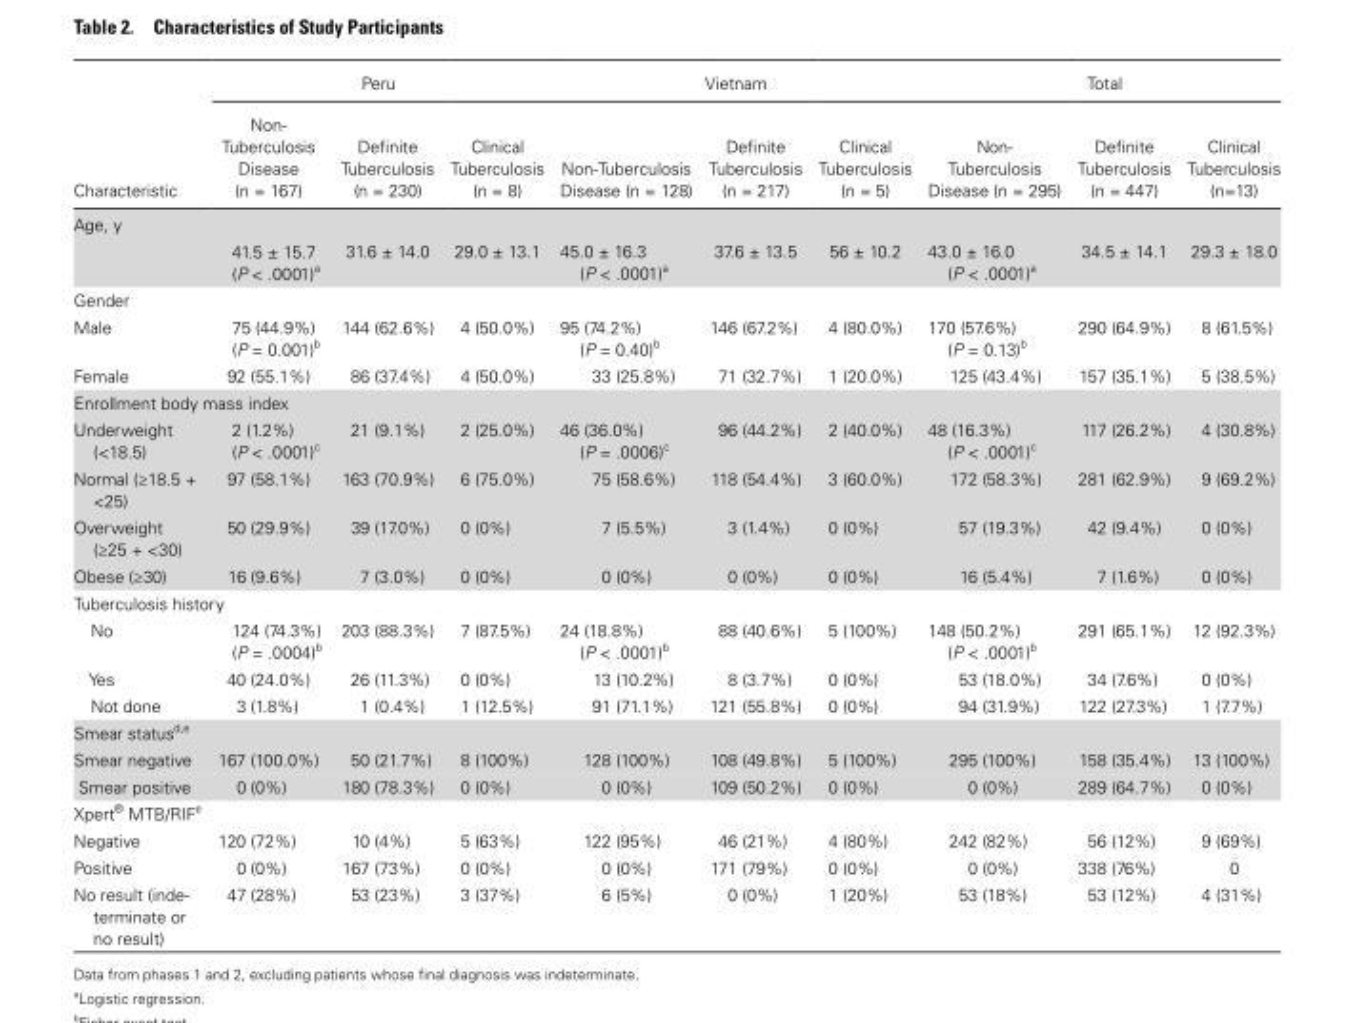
<table><thead><tr><td rowspan="2">Characteristic</td><td colspan="3">Peru</td><td colspan="3">Vietnam</td><td colspan="3">Total</td></tr><tr><td>Non- Tuberculosis Disease (n = 167)</td><td>Definite Tuberculosis (n = 230)</td><td>Clinical Tuberculosis (n = 8)</td><td>Non-Tuberculosis Disease (n = 128)</td><td>Definite Tuberculosis (n = 217)</td><td>Clinical Tuberculosis (n = 5)</td><td>Non- Tuberculosis Disease (n = 295)</td><td>Definite Tuberculosis (n = 447)</td><td>Clinical Tuberculosis (n=13)</td></tr></thead><tbody><tr><td colspan="10">Age, y</td></tr><tr><td></td><td>41.5 ± 15.7 (P &lt; .0001)<sup>a</sup></td><td>31.6 ± 14.0</td><td>29.0 ± 13.1</td><td>45.0 ± 16.3 (P &lt; .0001)<sup>a</sup></td><td>37.6 ± 13.5</td><td>56 ± 10.2</td><td>43.0 ± 16.0 (P &lt; .0001)<sup>a</sup></td><td>34.5 ± 14.1</td><td>29.3 ± 18.0</td></tr><tr><td colspan="10">Gender</td></tr><tr><td>Male</td><td>75 (44.9%) (P = 0.001)<sup>b</sup></td><td>144 (62.6%)</td><td>4 (50.0%)</td><td>95 (74.2%) (P = 0.40)<sup>b</sup></td><td>146 (67.2%)</td><td>4 (80.0%)</td><td>170 (57.6%) (P = 0.13)<sup>b</sup></td><td>290 (64.9%)</td><td>8 (61.5%)</td></tr><tr><td>Female</td><td>92 (55.1%)</td><td>86 (37.4%)</td><td>4 (50.0%)</td><td>33 (25.8%)</td><td>71 (32.7%)</td><td>1 (20.0%)</td><td>125 (43.4%)</td><td>157 (35.1%)</td><td>5 (38.5%)</td></tr><tr><td colspan="10">Enrollment body mass index</td></tr><tr><td>Underweight (&lt;18.5)</td><td>2 (1.2%) (P &lt; .0001)<sup>c</sup></td><td>21 (9.1%)</td><td>2 (25.0%)</td><td>46 (36.0%) (P = .0006)<sup>c</sup></td><td>96 (44.2%)</td><td>2 (40.0%)</td><td>48 (16.3%) (P &lt; .0001)<sup>c</sup></td><td>117 (26.2%)</td><td>4 (30.8%)</td></tr><tr><td>Normal (≥18.5 + &lt;25)</td><td>97 (58.1%)</td><td>163 (70.9%)</td><td>6 (75.0%)</td><td>75 (58.6%)</td><td>118 (54.4%)</td><td>3 (60.0%)</td><td>172 (58.3%)</td><td>281 (62.9%)</td><td>9 (69.2%)</td></tr><tr><td>Overweight (≥25 + &lt;30)</td><td>50 (29.9%)</td><td>39 (17.0%)</td><td>0 (0%)</td><td>7 (5.5%)</td><td>3 (1.4%)</td><td>0 (0%)</td><td>57 (19.3%)</td><td>42 (9.4%)</td><td>0 (0%)</td></tr><tr><td>Obese (≥30)</td><td>16 (9.6%)</td><td>7 (3.0%)</td><td>0 (0%)</td><td>0 (0%)</td><td>0 (0%)</td><td>0 (0%)</td><td>16 (5.4%)</td><td>7 (1.6%)</td><td>0 (0%)</td></tr><tr><td colspan="10">Tuberculosis history</td></tr><tr><td>No</td><td>124 (74.3%) (P = .0004)<sup>b</sup></td><td>203 (88.3%)</td><td>7 (87.5%)</td><td>24 (18.8%) (P &lt; .0001)<sup>b</sup></td><td>88 (40.6%)</td><td>5 (100%)</td><td>148 (50.2%) (P &lt; .0001)<sup>b</sup></td><td>291 (65.1%)</td><td>12 (92.3%)</td></tr><tr><td>Yes</td><td>40 (24.0%)</td><td>26 (11.3%)</td><td>0 (0%)</td><td>13 (10.2%)</td><td>8 (3.7%)</td><td>0 (0%)</td><td>53 (18.0%)</td><td>34 (7.6%)</td><td>0 (0%)</td></tr><tr><td>Not done</td><td>3 (1.8%)</td><td>1 (0.4%)</td><td>1 (12.5%)</td><td>91 (71.1%)</td><td>121 (55.8%)</td><td>0 (0%)</td><td>94 (31.9%)</td><td>122 (27.3%)</td><td>1 (7.7%)</td></tr><tr><td colspan="10">Smear status<sup>d</sup>,<sup>e</sup></td></tr><tr><td>Smear negative</td><td>167 (100.0%)</td><td>50 (21.7%)</td><td>8 (100%)</td><td>128 (100%)</td><td>108 (49.8%)</td><td>5 (100%)</td><td>295 (100%)</td><td>158 (35.4%)</td><td>13 (100%)</td></tr><tr><td>Smear positive</td><td>0 (0%)</td><td>180 (78.3%)</td><td>0 (0%)</td><td>0 (0%)</td><td>109 (50.2%)</td><td>0 (0%)</td><td>0 (0%)</td><td>289 (64.7%)</td><td>0 (0%)</td></tr><tr><td colspan="10">Xpert® MTB/RIF<sup>e</sup></td></tr><tr><td>Negative</td><td>120 (72%)</td><td>10 (4%)</td><td>5 (63%)</td><td>122 (95%)</td><td>46 (21%)</td><td>4 (80%)</td><td>242 (82%)</td><td>56 (12%)</td><td>9 (69%)</td></tr><tr><td>Positive</td><td>0 (0%)</td><td>167 (73%)</td><td>0 (0%)</td><td>0 (0%)</td><td>171 (79%)</td><td>0 (0%)</td><td>0 (0%)</td><td>338 (76%)</td><td>0</td></tr><tr><td>No result (inde- terminate or no result)</td><td>47 (28%)</td><td>53 (23%)</td><td>3 (37%)</td><td>6 (5%)</td><td>0 (0%)</td><td>1 (20%)</td><td>53 (18%)</td><td>53 (12%)</td><td>4 (31%)</td></tr></tbody></table>